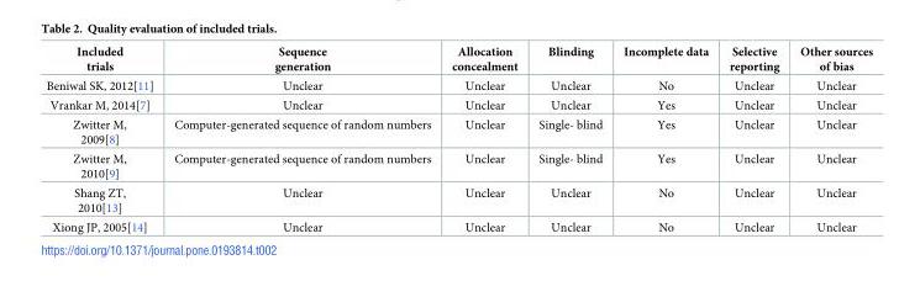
<table><thead><tr><td>Included trials</td><td>Sequence generation</td><td>Allocation concealment</td><td>Blinding</td><td>Incomplete data</td><td>Selective reporting</td><td>Other sources of bias</td></tr></thead><tbody><tr><td>Beniwal SK, 2012[11]</td><td>Unclear</td><td>Unclear</td><td>Unclear</td><td>No</td><td>Unclear</td><td>Unclear</td></tr><tr><td>Vrankar M, 2014[7]</td><td>Unclear</td><td>Unclear</td><td>Unclear</td><td>Yes</td><td>Unclear</td><td>Unclear</td></tr><tr><td>Zwitter M, 2009[8]</td><td>Computer-generated sequence of random numbers</td><td>Unclear</td><td>Single- blind</td><td>Yes</td><td>Unclear</td><td>Unclear</td></tr><tr><td>Zwitter M, 2010[9]</td><td>Computer-generated sequence of random numbers</td><td>Unclear</td><td>Single- blind</td><td>Yes</td><td>Unclear</td><td>Unclear</td></tr><tr><td>Shang ZT, 2010[13]</td><td>Unclear</td><td>Unclear</td><td>Unclear</td><td>No</td><td>Unclear</td><td>Unclear</td></tr><tr><td>Xiong JP, 2005[14]</td><td>Unclear</td><td>Unclear</td><td>Unclear</td><td>No</td><td>Unclear</td><td>Unclear</td></tr></tbody></table>